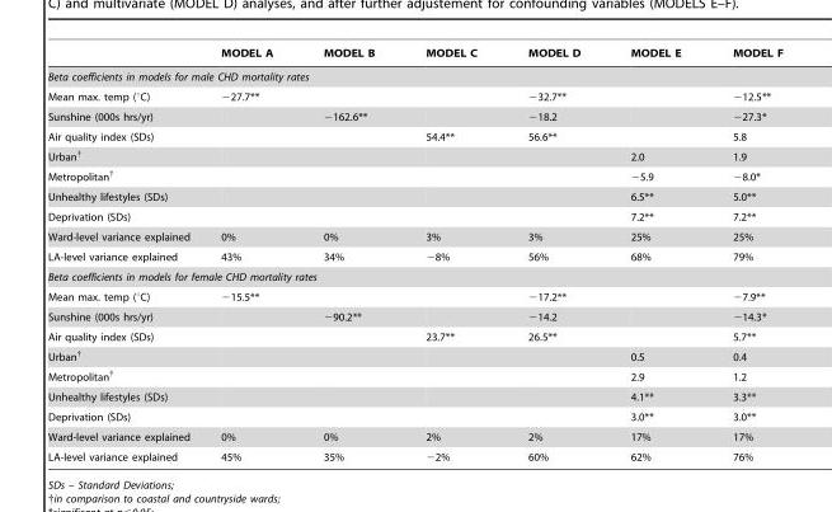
<table><thead><tr><td></td><td>MODEL A</td><td>MODEL B</td><td>MODEL C</td><td>MODEL D</td><td>MODEL E</td><td>MODEL F</td></tr></thead><tbody><tr><td colspan="7">Beta coefficients in models for male CHD mortality rates</td></tr><tr><td>Mean max. temp (°C)</td><td>−27.7**</td><td></td><td></td><td>−32.7**</td><td></td><td>−12.5**</td></tr><tr><td>Sunshine (000s hrs/yr)</td><td></td><td>−162.6**</td><td></td><td>−18.2</td><td></td><td>−27.3*</td></tr><tr><td>Air quality index (SDs)</td><td></td><td></td><td>54.4**</td><td>56.6**</td><td></td><td>5.8</td></tr><tr><td>Urban†</td><td></td><td></td><td></td><td></td><td>2.0</td><td>1.9</td></tr><tr><td>Metropolitan†</td><td></td><td></td><td></td><td></td><td>−5.9</td><td>−8.0*</td></tr><tr><td>Unhealthy lifestyles (SDs)</td><td></td><td></td><td></td><td></td><td>6.5**</td><td>5.0**</td></tr><tr><td>Deprivation (SDs)</td><td></td><td></td><td></td><td></td><td>7.2**</td><td>7.2**</td></tr><tr><td>Ward-level variance explained</td><td>0%</td><td>0%</td><td>3%</td><td>3%</td><td>25%</td><td>25%</td></tr><tr><td>LA-level variance explained</td><td>43%</td><td>34%</td><td>−8%</td><td>56%</td><td>68%</td><td>79%</td></tr><tr><td colspan="7">Beta coefficients in models for female CHD mortality rates</td></tr><tr><td>Mean max. temp (°C)</td><td>−15.5**</td><td></td><td></td><td>−17.2**</td><td></td><td>−7.9**</td></tr><tr><td>Sunshine (000s hrs/yr)</td><td></td><td>−90.2**</td><td></td><td>−14.2</td><td></td><td>−14.3*</td></tr><tr><td>Air quality index (SDs)</td><td></td><td></td><td>23.7**</td><td>26.5**</td><td></td><td>5.7**</td></tr><tr><td>Urban†</td><td></td><td></td><td></td><td></td><td>0.5</td><td>0.4</td></tr><tr><td>Metropolitan†</td><td></td><td></td><td></td><td></td><td>2.9</td><td>1.2</td></tr><tr><td>Unhealthy lifestyles (SDs)</td><td></td><td></td><td></td><td></td><td>4.1**</td><td>3.3**</td></tr><tr><td>Deprivation (SDs)</td><td></td><td></td><td></td><td></td><td>3.0**</td><td>3.0**</td></tr><tr><td>Ward-level variance explained</td><td>0%</td><td>0%</td><td>2%</td><td>2%</td><td>17%</td><td>17%</td></tr><tr><td>LA-level variance explained</td><td>45%</td><td>35%</td><td>−2%</td><td>60%</td><td>62%</td><td>76%</td></tr></tbody></table>